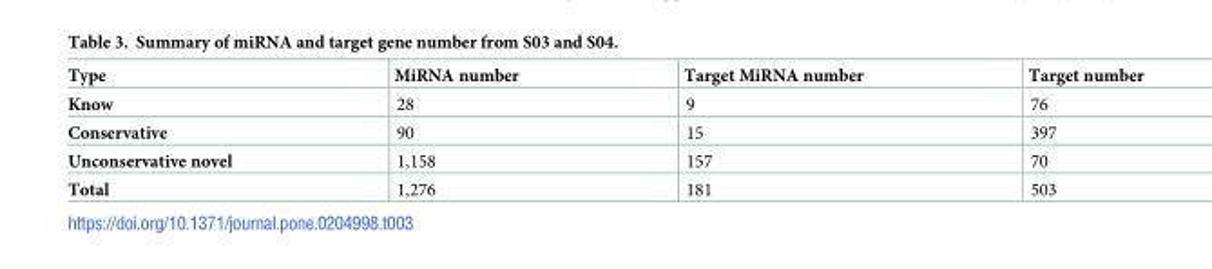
<table><thead><tr><td>Type</td><td>MiRNA number</td><td>Target MiRNA number</td><td>Target number</td></tr></thead><tbody><tr><td>Know</td><td>28</td><td>9</td><td>76</td></tr><tr><td>Conservative</td><td>90</td><td>15</td><td>397</td></tr><tr><td>Unconservative novel</td><td>1,158</td><td>157</td><td>70</td></tr><tr><td>Total</td><td>1,276</td><td>181</td><td>503</td></tr></tbody></table>